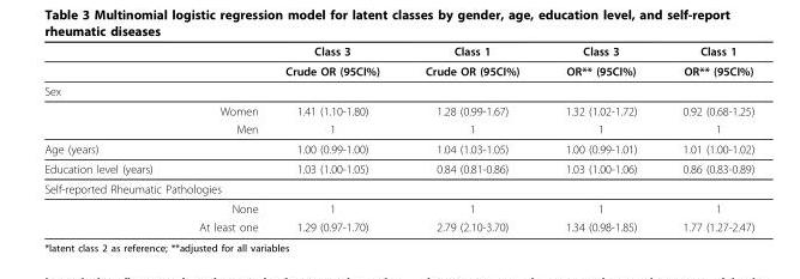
<table><thead><tr><td></td><td>Class 3</td><td>Class 1</td><td>Class 3</td><td>Class 1</td></tr></thead><tbody><tr><td></td><td>Crude OR (95CI%)</td><td>Crude OR (95CI%)</td><td>OR** (95CI%)</td><td>OR** (95CI%)</td></tr><tr><td colspan="5">Sex</td></tr><tr><td>Women</td><td>1.41 (1.10-1.80)</td><td>1.28 (0.99-1.67)</td><td>1.32 (1.02-1.72)</td><td>0.92 (0.68-1.25)</td></tr><tr><td>Men</td><td>1</td><td>1</td><td>1</td><td>1</td></tr><tr><td>Age (years)</td><td>1.00 (0.99-1.00)</td><td>1.04 (1.03-1.05)</td><td>1.00 (0.99-1.01)</td><td>1.01 (1.00-1.02)</td></tr><tr><td>Education level (years)</td><td>1.03 (1.00-1.05)</td><td>0.84 (0.81-0.86)</td><td>1.03 (1.00-1.06)</td><td>0.86 (0.83-0.89)</td></tr><tr><td colspan="5">Self-reported Rheumatic Pathologies</td></tr><tr><td>None</td><td>1</td><td>1</td><td>1</td><td>1</td></tr><tr><td>At least one</td><td>1.29 (0.97-1.70)</td><td>2.79 (2.10-3.70)</td><td>1.34 (0.98-1.85)</td><td>1.77 (1.27-2.47)</td></tr></tbody></table>